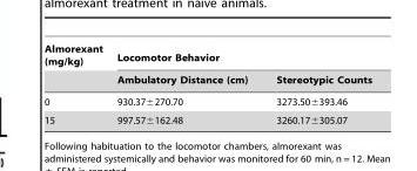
<table><thead><tr><td rowspan="2">Almorexant (mg/kg)</td><td colspan="2">Locomotor Behavior</td></tr><tr><td>Ambulatory Distance (cm)</td><td>Stereotypic Counts</td></tr></thead><tbody><tr><td>0</td><td>930.37±270.70</td><td>3273.50±393.46</td></tr><tr><td>15</td><td>997.57±162.48</td><td>3260.17±305.07</td></tr></tbody></table>